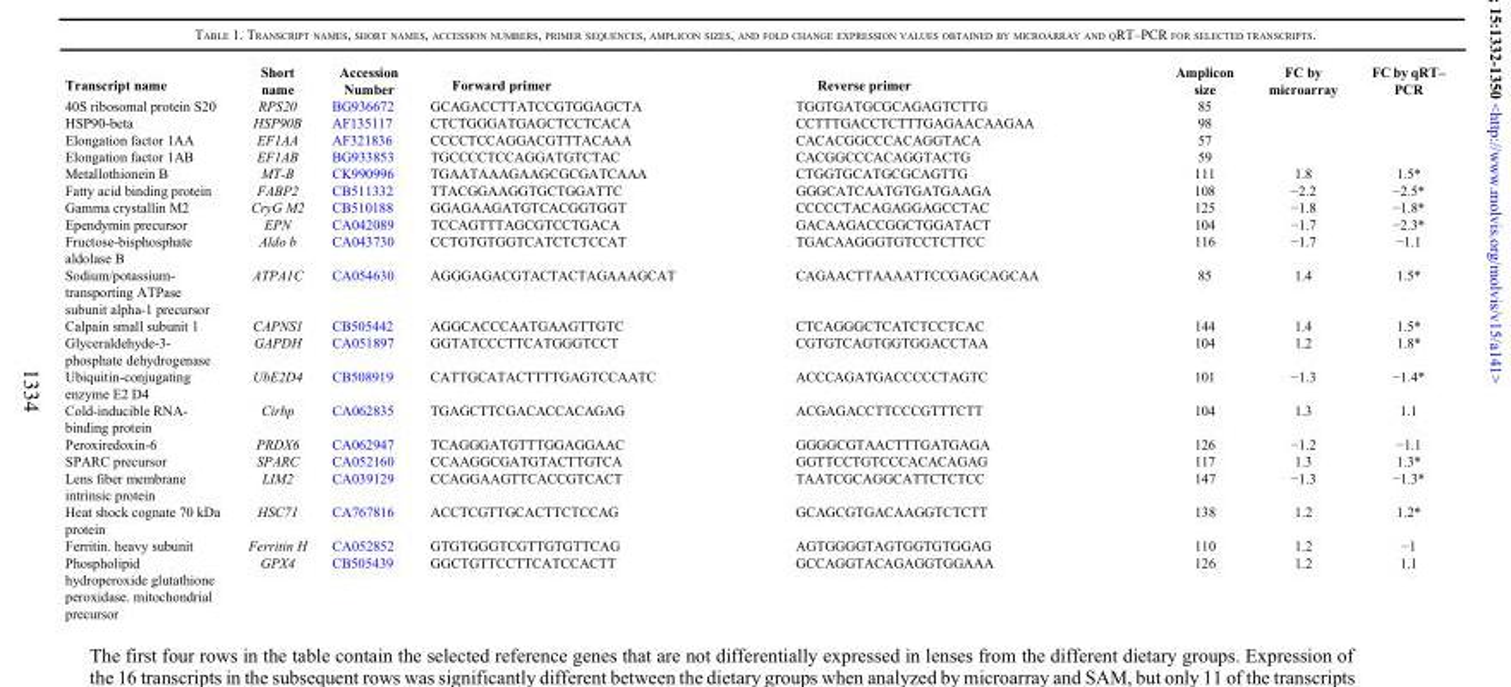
<table><thead><tr><td>Transcript name</td><td>Short name</td><td>Accession Number</td><td>Forward primer</td><td>Reverse primer</td><td>Amplicon size</td><td>FC by microarray</td><td>FC by qRT– PCR</td></tr></thead><tbody><tr><td>40S ribosomal protein S20</td><td>RPS20</td><td>BG936672</td><td>GCAGACCTTATCCGTGGAGCTA</td><td>TGGTGATGCGCAGAGTCTTG</td><td>85</td><td></td><td></td></tr><tr><td>HSP90-beta</td><td>HSP90B</td><td>AF135117</td><td>CTCTGGGATGAGCTCCTCACA</td><td>CCTTTGACCTCTTTGAGAACAAGAA</td><td>98</td><td></td><td></td></tr><tr><td>Elongation factor 1AA</td><td>EF1AA</td><td>AF321836</td><td>CCCCTCCAGGACGTTTACAAA</td><td>CACACGGCCCACAGGTACA</td><td>57</td><td></td><td></td></tr><tr><td>Elongation factor 1AB</td><td>EF1AB</td><td>BG933853</td><td>TGCCCCTCCAGGATGTCTAC</td><td>CACGGCCCACAGGTACTG</td><td>59</td><td></td><td></td></tr><tr><td>Metallothionein B</td><td>MT-B</td><td>CK990996</td><td>TGAATAAAGAAGCGCGATCAAA</td><td>CTGGTGCATGCGCAGTTG</td><td>111</td><td>1.8</td><td>1.5*</td></tr><tr><td>Fatty acid binding protein</td><td>FABP2</td><td>CB511332</td><td>TTACGGAAGGTGCTGGATTC</td><td>GGGCATCAATGTGATGAAGA</td><td>108</td><td>−2.2</td><td>−2.5*</td></tr><tr><td>Gamma crystallin M2</td><td>CryG M2</td><td>CB510188</td><td>GGAGAAGATGTCACGGTGGT</td><td>CCCCCTACAGAGGAGCCTAC</td><td>125</td><td>−1.8</td><td>−1.8*</td></tr><tr><td>Ependymin precursor</td><td>EPN</td><td>CA042089</td><td>TCCAGTTTAGCGTCCTGACA</td><td>GACAAGACCGGCTGGATACT</td><td>104</td><td>−1.7</td><td>−2.3*</td></tr><tr><td>Fructose-bisphosphate aldolase B</td><td>Aldo b</td><td>CA043730</td><td>CCTGTGTGGTCATCTCTCCAT</td><td>TGACAAGGGTGTCCTCTTCC</td><td>116</td><td>−1.7</td><td>−1.1</td></tr><tr><td>Sodium/potassium- transporting ATPase subunit alpha-1 precursor</td><td>ATPA1C</td><td>CA054630</td><td>AGGGAGACGTACTACTAGAAAGCAT</td><td>CAGAACTTAAAATTCCGAGCAGCAA</td><td>85</td><td>1.4</td><td>1.5*</td></tr><tr><td>Calpain small subunit 1</td><td>CAPNS1</td><td>CB505442</td><td>AGGCACCCAATGAAGTTGTC</td><td>CTCAGGGCTCATCTCCTCAC</td><td>144</td><td>1.4</td><td>1.5*</td></tr><tr><td>Glyceraldehyde-3- phosphate dehydrogenase</td><td>GAPDH</td><td>CA051897</td><td>GGTATCCCTTCATGGGTCCT</td><td>CGTGTCAGTGGTGGACCTAA</td><td>104</td><td>1.2</td><td>1.8*</td></tr><tr><td>Ubiquitin-conjugating enzyme E2 D4</td><td>UbE2D4</td><td>CB508919</td><td>CATTGCATACTTTTGAGTCCAATC</td><td>ACCCAGATGACCCCCTAGTC</td><td>101</td><td>−1.3</td><td>−1.4*</td></tr><tr><td>Cold-inducible RNA- binding protein</td><td>Cirbp</td><td>CA062835</td><td>TGAGCTTCGACACCACAGAG</td><td>ACGAGACCTTCCCGTTTCTT</td><td>104</td><td>1.3</td><td>1.1</td></tr><tr><td>Peroxiredoxin-6</td><td>PRDX6</td><td>CA062947</td><td>TCAGGGATGTTTGGAGGAAC</td><td>GGGGCGTAACTTTGATGAGA</td><td>126</td><td>−1.2</td><td>−1.1</td></tr><tr><td>SPARC precursor</td><td>SPARC</td><td>CA052160</td><td>CCAAGGCGATGTACTTGTCA</td><td>GGTTCCTGTCCCACACAGAG</td><td>117</td><td>1.3</td><td>1.3*</td></tr><tr><td>Lens fiber membrane intrinsic protein</td><td>LIM2</td><td>CA039129</td><td>CCAGGAAGTTCACCGTCACT</td><td>TAATCGCAGGCATTCTCTCC</td><td>147</td><td>−1.3</td><td>−1.3*</td></tr><tr><td>Heat shock cognate 70 kDa protein</td><td>HSC71</td><td>CA767816</td><td>ACCTCGTTGCACTTCTCCAG</td><td>GCAGCGTGACAAGGTCTCTT</td><td>138</td><td>1.2</td><td>1.2*</td></tr><tr><td>Ferritin. heavy subunit</td><td>Ferritin H</td><td>CA052852</td><td>GTGTGGGTCGTTGTGTTCAG</td><td>AGTGGGGTAGTGGTGTGGAG</td><td>110</td><td>1.2</td><td>−1</td></tr><tr><td>Phospholipid hydroperoxide glutathione peroxidase. mitochondrial precursor</td><td>GPX4</td><td>CB505439</td><td>GGCTGTTCCTTCATCCACTT</td><td>GCCAGGTACAGAGGTGGAAA</td><td>126</td><td>1.2</td><td>1.1</td></tr></tbody></table>